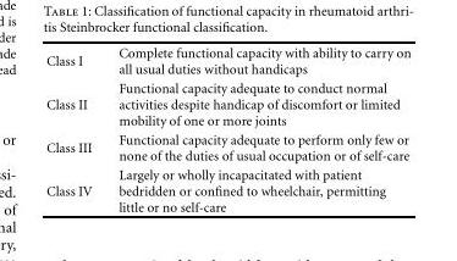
<table><tbody><tr><td>Class I</td><td>Complete functional capacity with ability to carry on all usual duties without handicaps</td></tr><tr><td>Class II</td><td>Functional capacity adequate to conduct normal activities despite handicap of discomfort or limited mobility of one or more joints</td></tr><tr><td>Class III</td><td>Functional capacity adequate to perform only few or none of the duties of usual occupation or of self-care</td></tr><tr><td>Class IV</td><td>Largely or wholly incapacitated with patient bedridden or confined to wheelchair, permitting little or no self-care</td></tr></tbody></table>